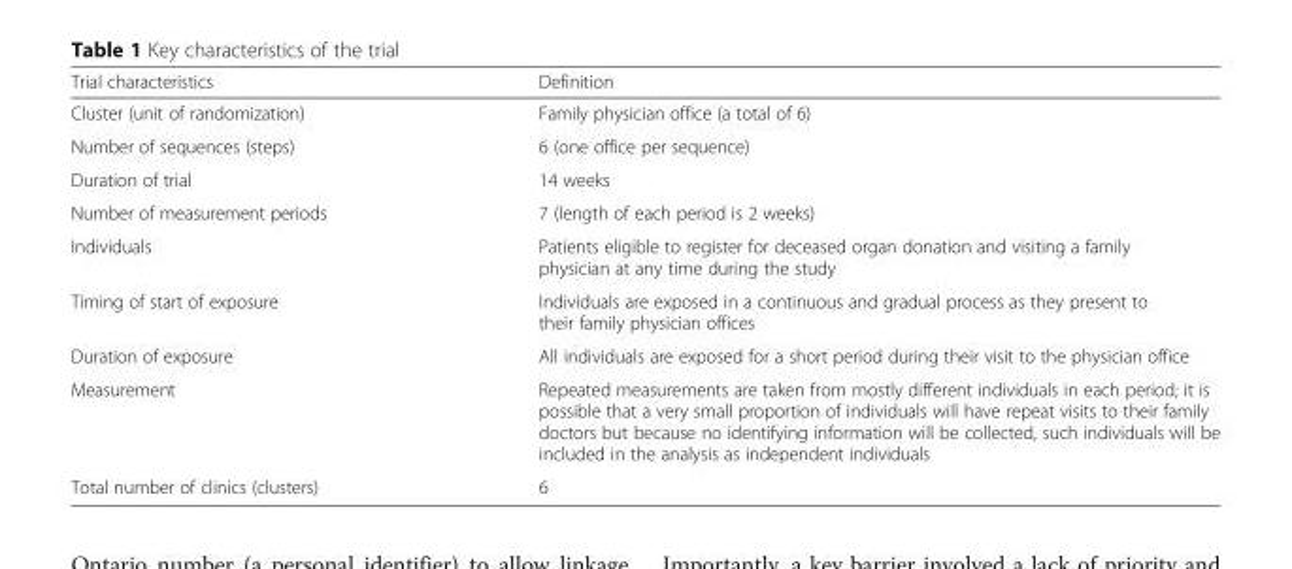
<table><thead><tr><td>Trial characteristics</td><td>Definition</td></tr></thead><tbody><tr><td>Cluster (unit of randomization)</td><td>Family physician office (a total of 6)</td></tr><tr><td>Number of sequences (steps)</td><td>6 (one office per sequence)</td></tr><tr><td>Duration of trial</td><td>14 weeks</td></tr><tr><td>Number of measurement periods</td><td>7 (length of each period is 2 weeks)</td></tr><tr><td>Individuals</td><td>Patients eligible to register for deceased organ donation and visiting a family physician at any time during the study</td></tr><tr><td>Timing of start of exposure</td><td>Individuals are exposed in a continuous and gradual process as they present to their family physician offices</td></tr><tr><td>Duration of exposure</td><td>All individuals are exposed for a short period during their visit to the physician office</td></tr><tr><td>Measurement</td><td>Repeated measurements are taken from mostly different individuals in each period; it is possible that a very small proportion of individuals will have repeat visits to their family doctors but because no identifying information will be collected, such individuals will be included in the analysis as independent individuals</td></tr><tr><td>Total number of clinics (clusters)</td><td>6</td></tr></tbody></table>